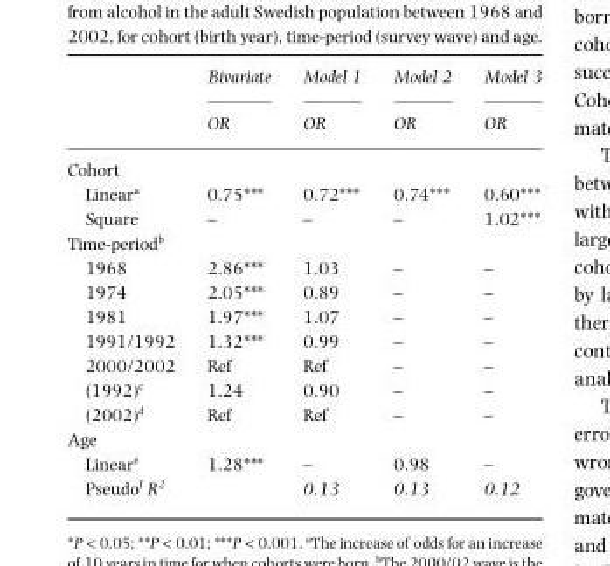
<table><thead><tr><td rowspan="2"></td><td rowspan="2">Bivariate OR</td><td rowspan="2">Model 1 OR</td><td rowspan="2">Model 2 OR</td><td rowspan="2">Model 3 OR</td></tr><tr></tr></thead><tbody><tr><td colspan="5">Cohort</td></tr><tr><td>Linear<sup>a</sup></td><td>0.75***</td><td>0.72***</td><td>0.74***</td><td>0.60***</td></tr><tr><td>Square</td><td>–</td><td>–</td><td>–</td><td>1.02***</td></tr><tr><td colspan="5">Time-period<sup>b</sup></td></tr><tr><td>1968</td><td>2.86***</td><td>1.03</td><td>–</td><td>–</td></tr><tr><td>1974</td><td>2.05***</td><td>0.89</td><td>–</td><td>–</td></tr><tr><td>1981</td><td>1.97***</td><td>1.07</td><td>–</td><td>–</td></tr><tr><td>1991/1992</td><td>1.32***</td><td>0.99</td><td>–</td><td>–</td></tr><tr><td>2000/2002</td><td>Ref</td><td>Ref</td><td>–</td><td>–</td></tr><tr><td>(1992)<sup>c</sup></td><td>1.24</td><td>0.90</td><td>–</td><td>–</td></tr><tr><td>(2002)<sup>d</sup></td><td>Ref</td><td>Ref</td><td>–</td><td>–</td></tr><tr><td colspan="5">Age</td></tr><tr><td>Linear<sup>e</sup></td><td>1.28***</td><td>–</td><td>0.98</td><td>–</td></tr><tr><td>Pseudo<sup>f</sup> R<sup>2</sup></td><td></td><td>0.13</td><td>0.13</td><td>0.12</td></tr></tbody></table>